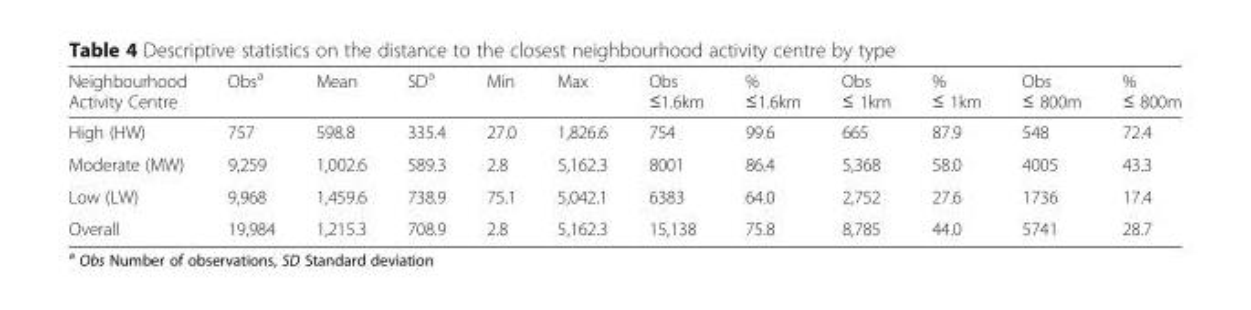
<table><thead><tr><td>Neighbourhood Activity Centre</td><td>Obs<sup>a</sup></td><td>Mean</td><td>SD<sup>a</sup></td><td>Min</td><td>Max</td><td>Obs ≤1.6km</td><td>% ≤1.6km</td><td>Obs ≤ 1km</td><td>% ≤ 1km</td><td>Obs ≤ 800m</td><td>% ≤ 800m</td></tr></thead><tbody><tr><td>High (HW)</td><td>757</td><td>598.8</td><td>335.4</td><td>27.0</td><td>1,826.6</td><td>754</td><td>99.6</td><td>665</td><td>87.9</td><td>548</td><td>72.4</td></tr><tr><td>Moderate (MW)</td><td>9,259</td><td>1,002.6</td><td>589.3</td><td>2.8</td><td>5,162.3</td><td>8001</td><td>86.4</td><td>5,368</td><td>58.0</td><td>4005</td><td>43.3</td></tr><tr><td>Low (LW)</td><td>9,968</td><td>1,459.6</td><td>738.9</td><td>75.1</td><td>5,042.1</td><td>6383</td><td>64.0</td><td>2,752</td><td>27.6</td><td>1736</td><td>17.4</td></tr><tr><td>Overall</td><td>19,984</td><td>1,215.3</td><td>708.9</td><td>2.8</td><td>5,162.3</td><td>15,138</td><td>75.8</td><td>8,785</td><td>44.0</td><td>5741</td><td>28.7</td></tr></tbody></table>